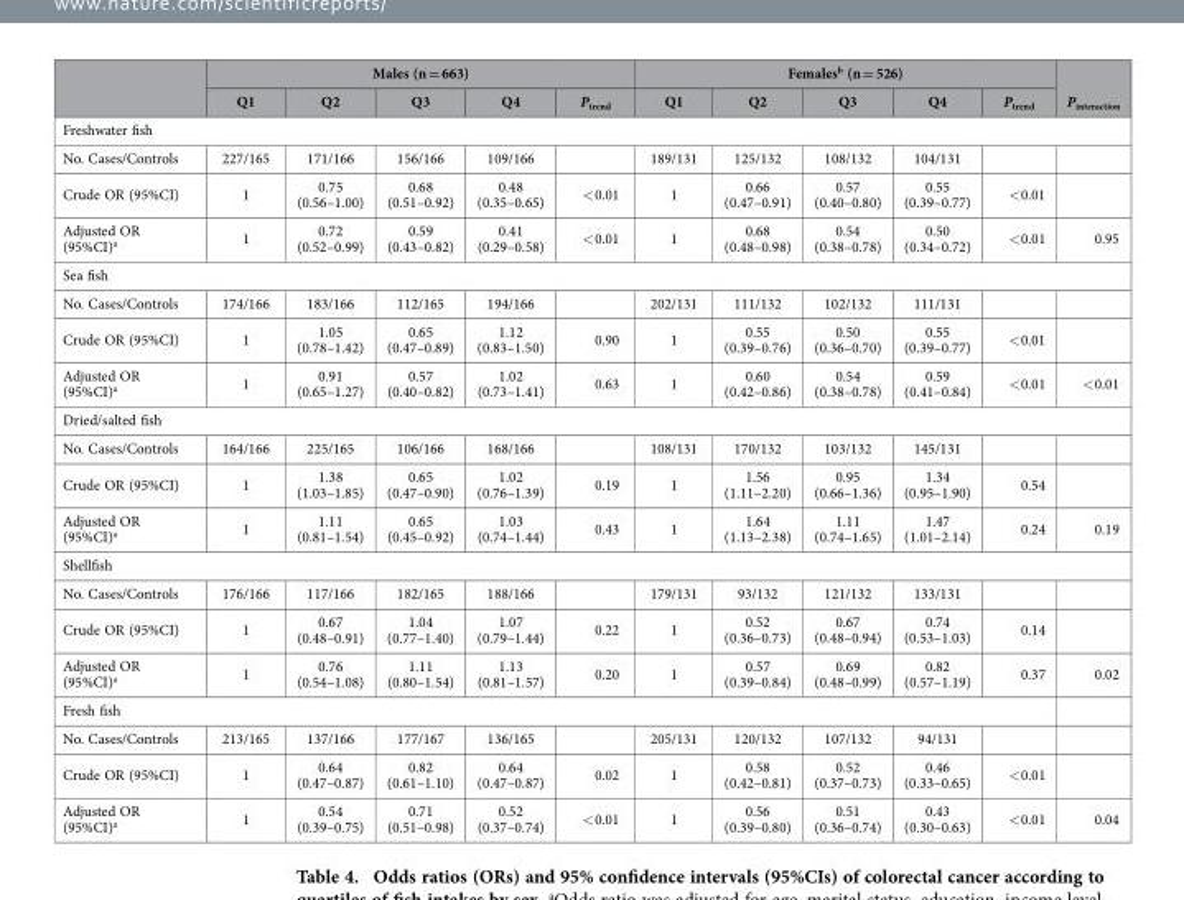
<table><thead><tr><td rowspan="2"></td><td colspan="5">Males (n = 663)</td><td colspan="5">Females<sup>b</sup> (n = 526)</td><td rowspan="2">P<sub>interaction</sub></td></tr><tr><td>Q1</td><td>Q2</td><td>Q3</td><td>Q4</td><td>P<sub>trend</sub></td><td>Q1</td><td>Q2</td><td>Q3</td><td>Q4</td><td>P<sub>trend</sub></td></tr></thead><tbody><tr><td colspan="12">Freshwater fish</td></tr><tr><td>No. Cases/Controls</td><td>227/165</td><td>171/166</td><td>156/166</td><td>109/166</td><td></td><td>189/131</td><td>125/132</td><td>108/132</td><td>104/131</td><td></td><td></td></tr><tr><td>Crude OR (95%CI)</td><td>1</td><td>0.75 (0.56–1.00)</td><td>0.68 (0.51–0.92)</td><td>0.48 (0.35–0.65)</td><td>&lt; 0.01</td><td>1</td><td>0.66 (0.47–0.91)</td><td>0.57 (0.40–0.80)</td><td>0.55 (0.39–0.77)</td><td>&lt; 0.01</td><td></td></tr><tr><td>Adjusted OR (95%CI)<sup>a</sup></td><td>1</td><td>0.72 (0.52–0.99)</td><td>0.59 (0.43–0.82)</td><td>0.41 (0.29–0.58)</td><td>&lt; 0.01</td><td>1</td><td>0.68 (0.48–0.98)</td><td>0.54 (0.38–0.78)</td><td>0.50 (0.34–0.72)</td><td>&lt; 0.01</td><td>0.95</td></tr><tr><td colspan="12">Sea fish</td></tr><tr><td>No. Cases/Controls</td><td>174/166</td><td>183/166</td><td>112/165</td><td>194/166</td><td></td><td>202/131</td><td>111/132</td><td>102/132</td><td>111/131</td><td></td><td></td></tr><tr><td>Crude OR (95%CI)</td><td>1</td><td>1.05 (0.78–1.42)</td><td>0.65 (0.47–0.89)</td><td>1.12 (0.83–1.50)</td><td>0.90</td><td>1</td><td>0.55 (0.39–0.76)</td><td>0.50 (0.36–0.70)</td><td>0.55 (0.39–0.77)</td><td>&lt; 0.01</td><td></td></tr><tr><td>Adjusted OR (95%CI)<sup>a</sup></td><td>1</td><td>0.91 (0.65–1.27)</td><td>0.57 (0.40–0.82)</td><td>1.02 (0.73–1.41)</td><td>0.63</td><td>1</td><td>0.60 (0.42–0.86)</td><td>0.54 (0.38–0.78)</td><td>0.59 (0.41–0.84)</td><td>&lt; 0.01</td><td>&lt; 0.01</td></tr><tr><td colspan="12">Dried/salted fish</td></tr><tr><td>No. Cases/Controls</td><td>164/166</td><td>225/165</td><td>106/166</td><td>168/166</td><td></td><td>108/131</td><td>170/132</td><td>103/132</td><td>145/131</td><td></td><td></td></tr><tr><td>Crude OR (95%CI)</td><td>1</td><td>1.38 (1.03–1.85)</td><td>0.65 (0.47–0.90)</td><td>1.02 (0.76–1.39)</td><td>0.19</td><td>1</td><td>1.56 (1.11–2.20)</td><td>0.95 (0.66–1.36)</td><td>1.34 (0.95–1.90)</td><td>0.54</td><td></td></tr><tr><td>Adjusted OR (95%CI)<sup>a</sup></td><td>1</td><td>1.11 (0.81–1.54)</td><td>0.65 (0.45–0.92)</td><td>1.03 (0.74–1.44)</td><td>0.43</td><td>1</td><td>1.64 (1.13–2.38)</td><td>1.11 (0.74–1.65)</td><td>1.47 (1.01–2.14)</td><td>0.24</td><td>0.19</td></tr><tr><td colspan="12">Shellfish</td></tr><tr><td>No. Cases/Controls</td><td>176/166</td><td>117/166</td><td>182/165</td><td>188/166</td><td></td><td>179/131</td><td>93/132</td><td>121/132</td><td>133/131</td><td></td><td></td></tr><tr><td>Crude OR (95%CI)</td><td>1</td><td>0.67 (0.48–0.91)</td><td>1.04 (0.77–1.40)</td><td>1.07 (0.79–1.44)</td><td>0.22</td><td>1</td><td>0.52 (0.36–0.73)</td><td>0.67 (0.48–0.94)</td><td>0.74 (0.53–1.03)</td><td>0.14</td><td></td></tr><tr><td>Adjusted OR (95%CI)<sup>a</sup></td><td>1</td><td>0.76 (0.54–1.08)</td><td>1.11 (0.80–1.54)</td><td>1.13 (0.81–1.57)</td><td>0.20</td><td>1</td><td>0.57 (0.39–0.84)</td><td>0.69 (0.48–0.99)</td><td>0.82 (0.57–1.19)</td><td>0.37</td><td>0.02</td></tr><tr><td colspan="12">Fresh fish</td></tr><tr><td>No. Cases/Controls</td><td>213/165</td><td>137/166</td><td>177/167</td><td>136/165</td><td></td><td>205/131</td><td>120/132</td><td>107/132</td><td>94/131</td><td></td><td></td></tr><tr><td>Crude OR (95%CI)</td><td>1</td><td>0.64 (0.47–0.87)</td><td>0.82 (0.61–1.10)</td><td>0.64 (0.47–0.87)</td><td>0.02</td><td>1</td><td>0.58 (0.42–0.81)</td><td>0.52 (0.37–0.73)</td><td>0.46 (0.33–0.65)</td><td>&lt; 0.01</td><td></td></tr><tr><td>Adjusted OR (95%CI)<sup>a</sup></td><td>1</td><td>0.54 (0.39–0.75)</td><td>0.71 (0.51–0.98)</td><td>0.52 (0.37–0.74)</td><td>&lt; 0.01</td><td>1</td><td>0.56 (0.39–0.80)</td><td>0.51 (0.36–0.74)</td><td>0.43 (0.30–0.63)</td><td>&lt; 0.01</td><td>0.04</td></tr></tbody></table>